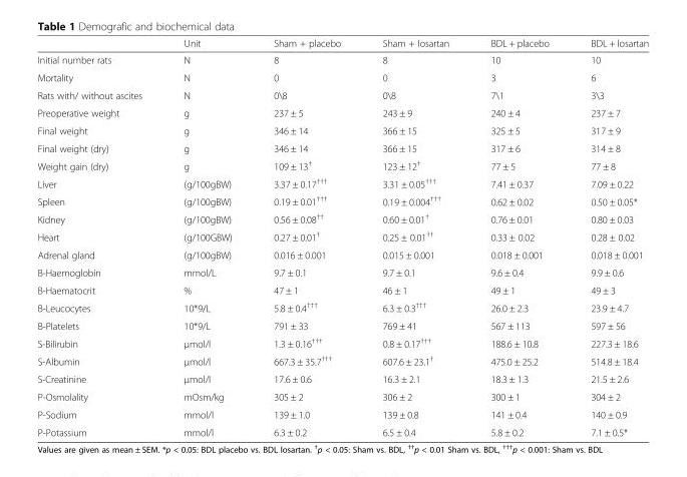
<table><thead><tr><td></td><td>Unit</td><td>Sham + placebo</td><td>Sham + losartan</td><td>BDL + placebo</td><td>BDL + losartan</td></tr></thead><tbody><tr><td>Initial number rats</td><td>N</td><td>8</td><td>8</td><td>10</td><td>10</td></tr><tr><td>Mortality</td><td>N</td><td>0</td><td>0</td><td>3</td><td>6</td></tr><tr><td>Rats with/ without ascites</td><td>N</td><td>0\8</td><td>0\8</td><td>7\1</td><td>3\3</td></tr><tr><td>Preoperative weight</td><td>g</td><td>237 ± 5</td><td>243 ± 9</td><td>240 ± 4</td><td>237 ± 7</td></tr><tr><td>Final weight</td><td>g</td><td>346 ± 14</td><td>366 ± 15</td><td>325 ± 5</td><td>317 ± 9</td></tr><tr><td>Final weight (dry)</td><td>g</td><td>346 ± 14</td><td>366 ± 15</td><td>317 ± 6</td><td>314 ± 8</td></tr><tr><td>Weight gain (dry)</td><td>g</td><td>109 ± 13<sup>†</sup></td><td>123 ± 12<sup>†</sup></td><td>77 ± 5</td><td>77 ± 8</td></tr><tr><td>Liver</td><td>(g/100gBW)</td><td>3.37 ± 0.17<sup>†††</sup></td><td>3.31 ± 0.05<sup>†††</sup></td><td>7.41 ± 0.37</td><td>7.09 ± 0.22</td></tr><tr><td>Spleen</td><td>(g/100gBW)</td><td>0.19 ± 0.01<sup>†††</sup></td><td>0.19 ± 0.004<sup>†††</sup></td><td>0.62 ± 0.02</td><td>0.50 ± 0.05*</td></tr><tr><td>Kidney</td><td>(g/100gBW)</td><td>0.56 ± 0.08<sup>††</sup></td><td>0.60 ± 0.01<sup>†</sup></td><td>0.76 ± 0.01</td><td>0.80 ± 0.03</td></tr><tr><td>Heart</td><td>(g/100GBW)</td><td>0.27 ± 0.01<sup>†</sup></td><td>0.25 ± 0.01<sup>††</sup></td><td>0.33 ± 0.02</td><td>0.28 ± 0.02</td></tr><tr><td>Adrenal gland</td><td>(g/100gBW)</td><td>0.016 ± 0.001</td><td>0.015 ± 0.001</td><td>0.018 ± 0.001</td><td>0.018 ± 0.001</td></tr><tr><td>B-Haemoglobin</td><td>mmol/L</td><td>9.7 ± 0.1</td><td>9.7 ± 0.1</td><td>9.6 ± 0.4</td><td>9.9 ± 0.6</td></tr><tr><td>B-Haematocrit</td><td>%</td><td>47 ± 1</td><td>46 ± 1</td><td>49 ± 1</td><td>49 ± 3</td></tr><tr><td>B-Leucocytes</td><td>10*9/L</td><td>5.8 ± 0.4<sup>†††</sup></td><td>6.3 ± 0.3<sup>†††</sup></td><td>26.0 ± 2.3</td><td>23.9 ± 4.7</td></tr><tr><td>B-Platelets</td><td>10*9/L</td><td>791 ± 33</td><td>769 ± 41</td><td>567 ± 113</td><td>597 ± 56</td></tr><tr><td>S-Bilirubin</td><td>μmol/l</td><td>1.3 ± 0.16<sup>†††</sup></td><td>0.8 ± 0.17<sup>†††</sup></td><td>188.6 ± 10.8</td><td>227.3 ± 18.6</td></tr><tr><td>S-Albumin</td><td>μmol/l</td><td>667.3 ± 35.7<sup>†††</sup></td><td>607.6 ± 23.1<sup>†</sup></td><td>475.0 ± 25.2</td><td>514.8 ± 18.4</td></tr><tr><td>S-Creatinine</td><td>μmol/l</td><td>17.6 ± 0.6</td><td>16.3 ± 2.1</td><td>18.3 ± 1.3</td><td>21.5 ± 2.6</td></tr><tr><td>P-Osmolality</td><td>mOsm/kg</td><td>305 ± 2</td><td>306 ± 2</td><td>300 ± 1</td><td>304 ± 2</td></tr><tr><td>P-Sodium</td><td>mmol/l</td><td>139 ± 1.0</td><td>139 ± 0.8</td><td>141 ± 0.4</td><td>140 ± 0.9</td></tr><tr><td>P-Potassium</td><td>mmol/l</td><td>6.3 ± 0.2</td><td>6.5 ± 0.4</td><td>5.8 ± 0.2</td><td>7.1 ± 0.5*</td></tr></tbody></table>